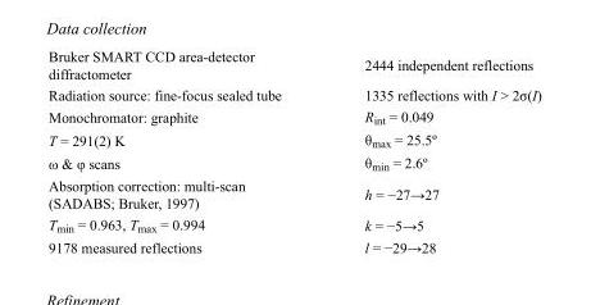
<table><tbody><tr><td>Bruker SMART CCD area-detector diffractometer</td><td>2444 independent reflections</td></tr><tr><td>Radiation source: fine-focus sealed tube</td><td>1335 reflections with I &gt; 2σ(I)</td></tr><tr><td>Monochromator: graphite</td><td>R<sub>int</sub> = 0.049</td></tr><tr><td>T = 291(2) K</td><td>θ<sub>max</sub> = 25.5º</td></tr><tr><td>ω &amp; φ scans</td><td>θ<sub>min</sub> = 2.6º</td></tr><tr><td>Absorption correction: multi-scan (SADABS; Bruker, 1997)</td><td>h = −27→27</td></tr><tr><td>T<sub>min</sub> = 0.963, T<sub>max</sub> = 0.994</td><td>k = −5→5</td></tr><tr><td>9178 measured reflections</td><td>l = −29→28</td></tr></tbody></table>